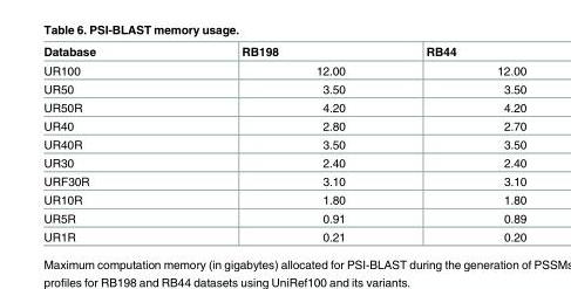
<table><thead><tr><td>Database</td><td>RB198</td><td>RB44</td></tr></thead><tbody><tr><td>UR100</td><td>12.00</td><td>12.00</td></tr><tr><td>UR50</td><td>3.50</td><td>3.50</td></tr><tr><td>UR50R</td><td>4.20</td><td>4.20</td></tr><tr><td>UR40</td><td>2.80</td><td>2.70</td></tr><tr><td>UR40R</td><td>3.50</td><td>3.50</td></tr><tr><td>UR30</td><td>2.40</td><td>2.40</td></tr><tr><td>URF30R</td><td>3.10</td><td>3.10</td></tr><tr><td>UR10R</td><td>1.80</td><td>1.80</td></tr><tr><td>UR5R</td><td>0.91</td><td>0.89</td></tr><tr><td>UR1R</td><td>0.21</td><td>0.20</td></tr></tbody></table>